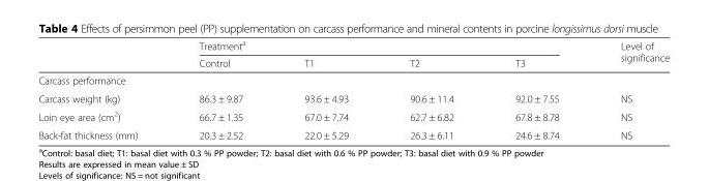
<table><thead><tr><td rowspan="2"></td><td colspan="4">Treatment<sup>a</sup></td><td rowspan="2">Level of significance</td></tr><tr><td>Control</td><td>T1</td><td>T2</td><td>T3</td></tr></thead><tbody><tr><td colspan="6">Carcass performance</td></tr><tr><td>Carcass weight (kg)</td><td>86.3 ± 9.87</td><td>93.6 ± 4.93</td><td>90.6 ± 11.4</td><td>92.0 ± 7.55</td><td>NS</td></tr><tr><td>Loin eye area (cm<sup>2</sup>)</td><td>66.7 ± 1.35</td><td>67.0 ± 7.74</td><td>62.7 ± 6.82</td><td>67.8 ± 8.78</td><td>NS</td></tr><tr><td>Back-fat thickness (mm)</td><td>20.3 ± 2.52</td><td>22.0 ± 5.29</td><td>26.3 ± 6.11</td><td>24.6 ± 8.74</td><td>NS</td></tr></tbody></table>